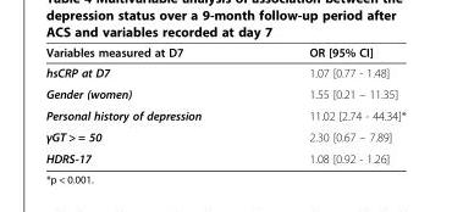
<table><thead><tr><td>Variables measured at D7</td><td>OR [95% CI]</td></tr></thead><tbody><tr><td>hsCRP at D7</td><td>1.07 [0.77 - 1.48]</td></tr><tr><td>Gender (women)</td><td>1.55 [0.21 – 11.35]</td></tr><tr><td>Personal history of depression</td><td>11.02 [2.74 - 44.34]*</td></tr><tr><td>γGT &gt; = 50</td><td>2.30 [0.67 – 7.89]</td></tr><tr><td>HDRS-17</td><td>1.08 [0.92 - 1.26]</td></tr></tbody></table>